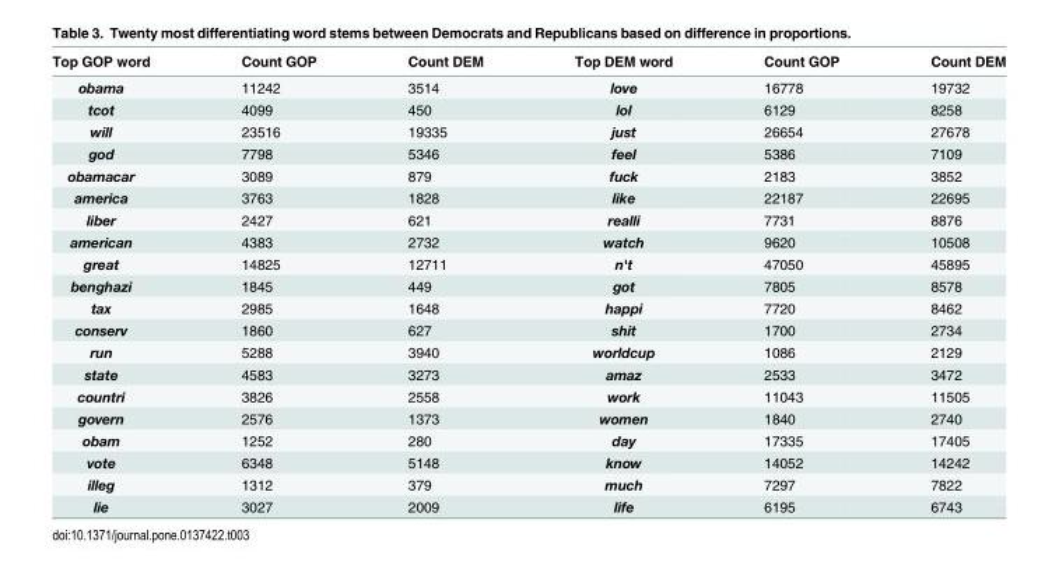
<table><thead><tr><td>Top GOP word</td><td>Count GOP</td><td>Count DEM</td><td>Top DEM word</td><td>Count GOP</td><td>Count DEM</td></tr></thead><tbody><tr><td>obama</td><td>11242</td><td>3514</td><td>love</td><td>16778</td><td>19732</td></tr><tr><td>tcot</td><td>4099</td><td>450</td><td>lol</td><td>6129</td><td>8258</td></tr><tr><td>will</td><td>23516</td><td>19335</td><td>just</td><td>26654</td><td>27678</td></tr><tr><td>god</td><td>7798</td><td>5346</td><td>feel</td><td>5386</td><td>7109</td></tr><tr><td>obamacar</td><td>3089</td><td>879</td><td>fuck</td><td>2183</td><td>3852</td></tr><tr><td>america</td><td>3763</td><td>1828</td><td>like</td><td>22187</td><td>22695</td></tr><tr><td>liber</td><td>2427</td><td>621</td><td>realli</td><td>7731</td><td>8876</td></tr><tr><td>american</td><td>4383</td><td>2732</td><td>watch</td><td>9620</td><td>10508</td></tr><tr><td>great</td><td>14825</td><td>12711</td><td>n&#x27;t</td><td>47050</td><td>45895</td></tr><tr><td>benghazi</td><td>1845</td><td>449</td><td>got</td><td>7805</td><td>8578</td></tr><tr><td>tax</td><td>2985</td><td>1648</td><td>happi</td><td>7720</td><td>8462</td></tr><tr><td>conserv</td><td>1860</td><td>627</td><td>shit</td><td>1700</td><td>2734</td></tr><tr><td>run</td><td>5288</td><td>3940</td><td>worldcup</td><td>1086</td><td>2129</td></tr><tr><td>state</td><td>4583</td><td>3273</td><td>amaz</td><td>2533</td><td>3472</td></tr><tr><td>countri</td><td>3826</td><td>2558</td><td>work</td><td>11043</td><td>11505</td></tr><tr><td>govern</td><td>2576</td><td>1373</td><td>women</td><td>1840</td><td>2740</td></tr><tr><td>obam</td><td>1252</td><td>280</td><td>day</td><td>17335</td><td>17405</td></tr><tr><td>vote</td><td>6348</td><td>5148</td><td>know</td><td>14052</td><td>14242</td></tr><tr><td>illeg</td><td>1312</td><td>379</td><td>much</td><td>7297</td><td>7822</td></tr><tr><td>lie</td><td>3027</td><td>2009</td><td>life</td><td>6195</td><td>6743</td></tr></tbody></table>